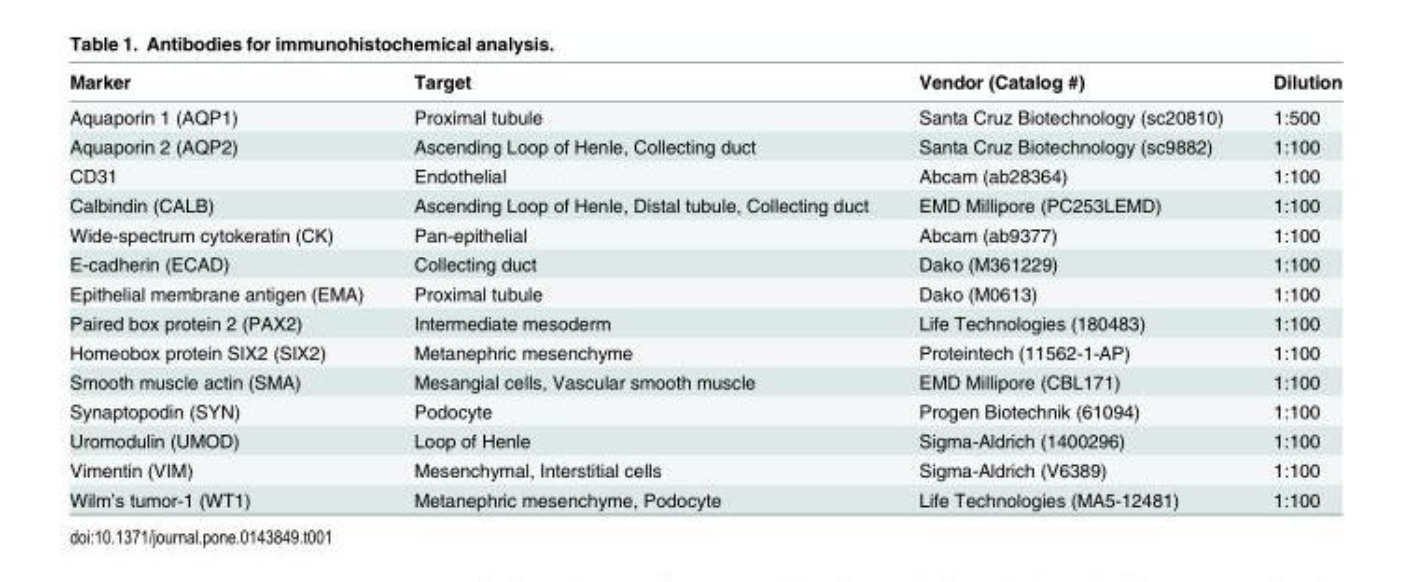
<table><thead><tr><td>Marker</td><td>Target</td><td>Vendor (Catalog #)</td><td>Dilution</td></tr></thead><tbody><tr><td>Aquaporin 1 (AQP1)</td><td>Proximal tubule</td><td>Santa Cruz Biotechnology (sc20810)</td><td>1:500</td></tr><tr><td>Aquaporin 2 (AQP2)</td><td>Ascending Loop of Henle, Collecting duct</td><td>Santa Cruz Biotechnology (sc9882)</td><td>1:100</td></tr><tr><td>CD31</td><td>Endothelial</td><td>Abcam (ab28364)</td><td>1:100</td></tr><tr><td>Calbindin (CALB)</td><td>Ascending Loop of Henle, Distal tubule, Collecting duct</td><td>EMD Millipore (PC253LEMD)</td><td>1:100</td></tr><tr><td>Wide-spectrum cytokeratin (CK)</td><td>Pan-epithelial</td><td>Abcam (ab9377)</td><td>1:100</td></tr><tr><td>E-cadherin (ECAD)</td><td>Collecting duct</td><td>Dako (M361229)</td><td>1:100</td></tr><tr><td>Epithelial membrane antigen (EMA)</td><td>Proximal tubule</td><td>Dako (M0613)</td><td>1:100</td></tr><tr><td>Paired box protein 2 (PAX2)</td><td>Intermediate mesoderm</td><td>Life Technologies (180483)</td><td>1:100</td></tr><tr><td>Homeobox protein SIX2 (SIX2)</td><td>Metanephric mesenchyme</td><td>Proteintech (11562-1-AP)</td><td>1:100</td></tr><tr><td>Smooth muscle actin (SMA)</td><td>Mesangial cells, Vascular smooth muscle</td><td>EMD Millipore (CBL171)</td><td>1:100</td></tr><tr><td>Synaptopodin (SYN)</td><td>Podocyte</td><td>Progen Biotechnik (61094)</td><td>1:100</td></tr><tr><td>Uromodulin (UMOD)</td><td>Loop of Henle</td><td>Sigma-Aldrich (1400296)</td><td>1:100</td></tr><tr><td>Vimentin (VIM)</td><td>Mesenchymal, Interstitial cells</td><td>Sigma-Aldrich (V6389)</td><td>1:100</td></tr><tr><td>Wilm’s tumor-1 (WT1)</td><td>Metanephric mesenchyme, Podocyte</td><td>Life Technologies (MA5-12481)</td><td>1:100</td></tr></tbody></table>